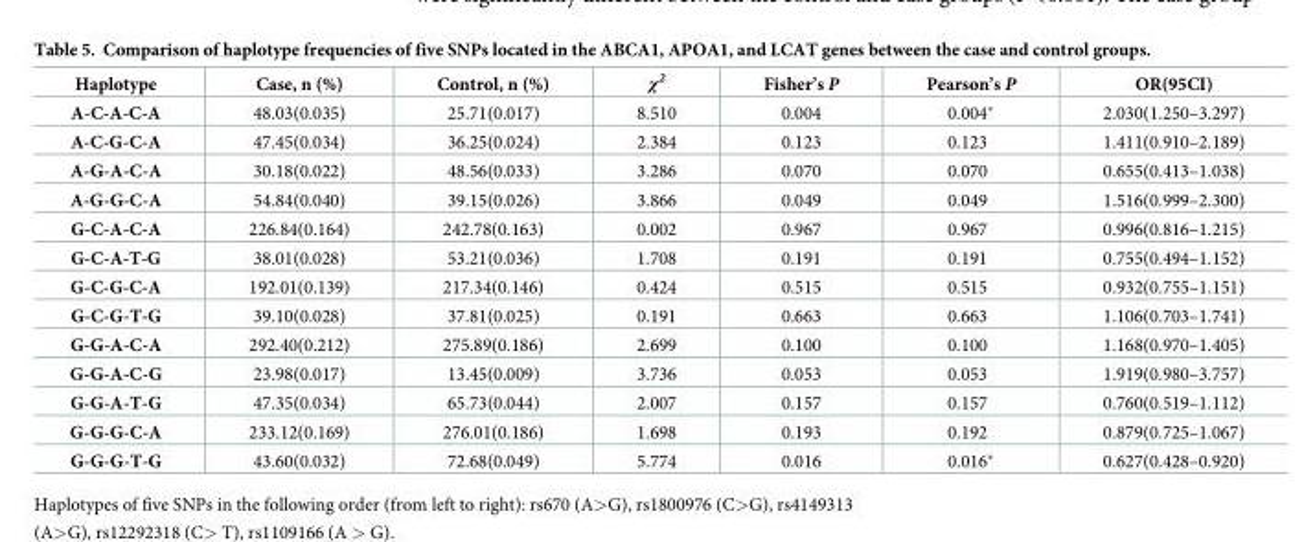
<table><thead><tr><td>Haplotype</td><td>Case, n (%)</td><td>Control, n (%)</td><td>χ<sup>2</sup></td><td>Fisher’s P</td><td>Pearson’s P</td><td>OR(95CI)</td></tr></thead><tbody><tr><td>A-C-A-C-A</td><td>48.03(0.035)</td><td>25.71(0.017)</td><td>8.510</td><td>0.004</td><td>0.004*</td><td>2.030(1.250–3.297)</td></tr><tr><td>A-C-G-C-A</td><td>47.45(0.034)</td><td>36.25(0.024)</td><td>2.384</td><td>0.123</td><td>0.123</td><td>1.411(0.910–2.189)</td></tr><tr><td>A-G-A-C-A</td><td>30.18(0.022)</td><td>48.56(0.033)</td><td>3.286</td><td>0.070</td><td>0.070</td><td>0.655(0.413–1.038)</td></tr><tr><td>A-G-G-C-A</td><td>54.84(0.040)</td><td>39.15(0.026)</td><td>3.866</td><td>0.049</td><td>0.049</td><td>1.516(0.999–2.300)</td></tr><tr><td>G-C-A-C-A</td><td>226.84(0.164)</td><td>242.78(0.163)</td><td>0.002</td><td>0.967</td><td>0.967</td><td>0.996(0.816–1.215)</td></tr><tr><td>G-C-A-T-G</td><td>38.01(0.028)</td><td>53.21(0.036)</td><td>1.708</td><td>0.191</td><td>0.191</td><td>0.755(0.494–1.152)</td></tr><tr><td>G-C-G-C-A</td><td>192.01(0.139)</td><td>217.34(0.146)</td><td>0.424</td><td>0.515</td><td>0.515</td><td>0.932(0.755–1.151)</td></tr><tr><td>G-C-G-T-G</td><td>39.10(0.028)</td><td>37.81(0.025)</td><td>0.191</td><td>0.663</td><td>0.663</td><td>1.106(0.703–1.741)</td></tr><tr><td>G-G-A-C-A</td><td>292.40(0.212)</td><td>275.89(0.186)</td><td>2.699</td><td>0.100</td><td>0.100</td><td>1.168(0.970–1.405)</td></tr><tr><td>G-G-A-C-G</td><td>23.98(0.017)</td><td>13.45(0.009)</td><td>3.736</td><td>0.053</td><td>0.053</td><td>1.919(0.980–3.757)</td></tr><tr><td>G-G-A-T-G</td><td>47.35(0.034)</td><td>65.73(0.044)</td><td>2.007</td><td>0.157</td><td>0.157</td><td>0.760(0.519–1.112)</td></tr><tr><td>G-G-G-C-A</td><td>233.12(0.169)</td><td>276.01(0.186)</td><td>1.698</td><td>0.193</td><td>0.192</td><td>0.879(0.725–1.067)</td></tr><tr><td>G-G-G-T-G</td><td>43.60(0.032)</td><td>72.68(0.049)</td><td>5.774</td><td>0.016</td><td>0.016*</td><td>0.627(0.428–0.920)</td></tr></tbody></table>